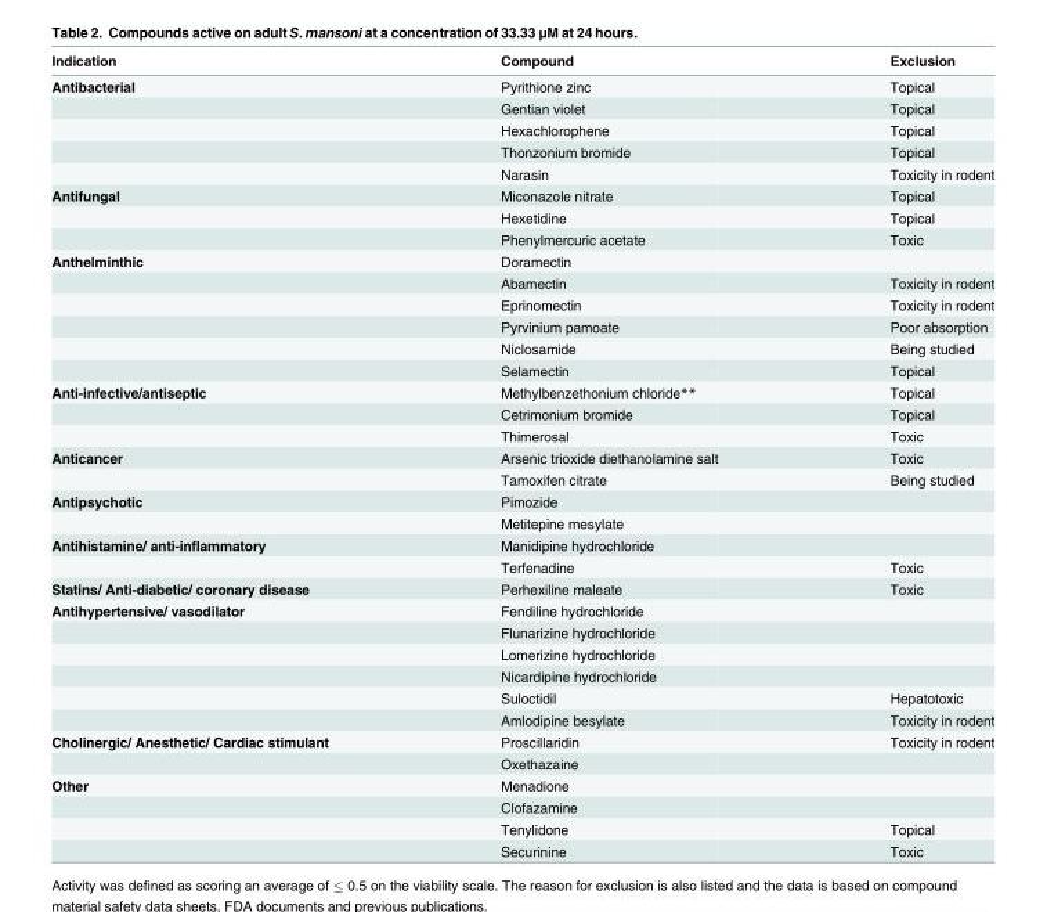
<table><thead><tr><td>Indication</td><td>Compound</td><td>Exclusion</td></tr></thead><tbody><tr><td rowspan="5">Antibacterial</td><td>Pyrithione zinc</td><td>Topical</td></tr><tr><td>Gentian violet</td><td>Topical</td></tr><tr><td>Hexachlorophene</td><td>Topical</td></tr><tr><td>Thonzonium bromide</td><td>Topical</td></tr><tr><td>Narasin</td><td>Toxicity in rodent</td></tr><tr><td rowspan="3">Antifungal</td><td>Miconazole nitrate</td><td>Topical</td></tr><tr><td>Hexetidine</td><td>Topical</td></tr><tr><td>Phenylmercuric acetate</td><td>Toxic</td></tr><tr><td rowspan="6">Anthelminthic</td><td>Doramectin</td><td></td></tr><tr><td>Abamectin</td><td>Toxicity in rodent</td></tr><tr><td>Eprinomectin</td><td>Toxicity in rodent</td></tr><tr><td>Pyrvinium pamoate</td><td>Poor absorption</td></tr><tr><td>Niclosamide</td><td>Being studied</td></tr><tr><td>Selamectin</td><td>Topical</td></tr><tr><td rowspan="3">Anti-infective/antiseptic</td><td>Methylbenzethonium chloride**</td><td>Topical</td></tr><tr><td>Cetrimonium bromide</td><td>Topical</td></tr><tr><td>Thimerosal</td><td>Toxic</td></tr><tr><td rowspan="2">Anticancer</td><td>Arsenic trioxide diethanolamine salt</td><td>Toxic</td></tr><tr><td>Tamoxifen citrate</td><td>Being studied</td></tr><tr><td rowspan="2">Antipsychotic</td><td>Pimozide</td><td></td></tr><tr><td>Metitepine mesylate</td><td></td></tr><tr><td rowspan="2">Antihistamine/ anti-inflammatory</td><td>Manidipine hydrochloride</td><td></td></tr><tr><td>Terfenadine</td><td>Toxic</td></tr><tr><td>Statins/ Anti-diabetic/ coronary disease</td><td>Perhexiline maleate</td><td>Toxic</td></tr><tr><td rowspan="6">Antihypertensive/ vasodilator</td><td>Fendiline hydrochloride</td><td></td></tr><tr><td>Flunarizine hydrochloride</td><td></td></tr><tr><td>Lomerizine hydrochloride</td><td></td></tr><tr><td>Nicardipine hydrochloride</td><td></td></tr><tr><td>Suloctidil</td><td>Hepatotoxic</td></tr><tr><td>Amlodipine besylate</td><td>Toxicity in rodent</td></tr><tr><td rowspan="2">Cholinergic/ Anesthetic/ Cardiac stimulant</td><td>Proscillaridin</td><td>Toxicity in rodent</td></tr><tr><td>Oxethazaine</td><td></td></tr><tr><td rowspan="4">Other</td><td>Menadione</td><td></td></tr><tr><td>Clofazamine</td><td></td></tr><tr><td>Tenylidone</td><td>Topical</td></tr><tr><td>Securinine</td><td>Toxic</td></tr></tbody></table>